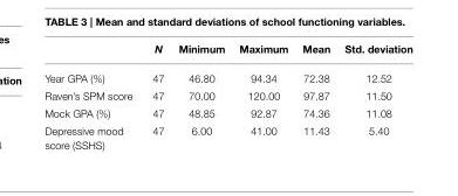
<table><thead><tr><td></td><td>N</td><td>Minimum</td><td>Maximum</td><td>Mean</td><td>Std. deviation</td></tr></thead><tbody><tr><td>Year GPA (%)</td><td>47</td><td>46.80</td><td>94.34</td><td>72.38</td><td>12.52</td></tr><tr><td>Raven’s SPM score</td><td>47</td><td>70.00</td><td>120.00</td><td>97.87</td><td>11.50</td></tr><tr><td>Mock GPA (%)</td><td>47</td><td>48.85</td><td>92.87</td><td>74.36</td><td>11.08</td></tr><tr><td>Depressive mood score (SSHS)</td><td>47</td><td>6.00</td><td>41.00</td><td>11.43</td><td>5.40</td></tr></tbody></table>